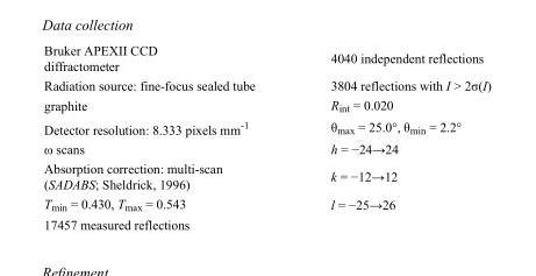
<table><tbody><tr><td>Bruker APEXII CCD diffractometer</td><td>4040 independent reflections</td></tr><tr><td>Radiation source: fine-focus sealed tube</td><td>3804 reflections with I &gt; 2σ(I)</td></tr><tr><td>graphite</td><td>R<sub>int</sub> = 0.020</td></tr><tr><td>Detector resolution: 8.333 pixels mm<sup>-1</sup></td><td>θ<sub>max</sub> = 25.0°, θ<sub>min</sub> = 2.2°</td></tr><tr><td>ω scans</td><td>h = −24→24</td></tr><tr><td>Absorption correction: multi-scan (SADABS; Sheldrick, 1996)</td><td>k = −12→12</td></tr><tr><td>T<sub>min</sub> = 0.430, T<sub>max</sub> = 0.543</td><td>l = −25→26</td></tr><tr><td>17457 measured reflections</td><td></td></tr></tbody></table>